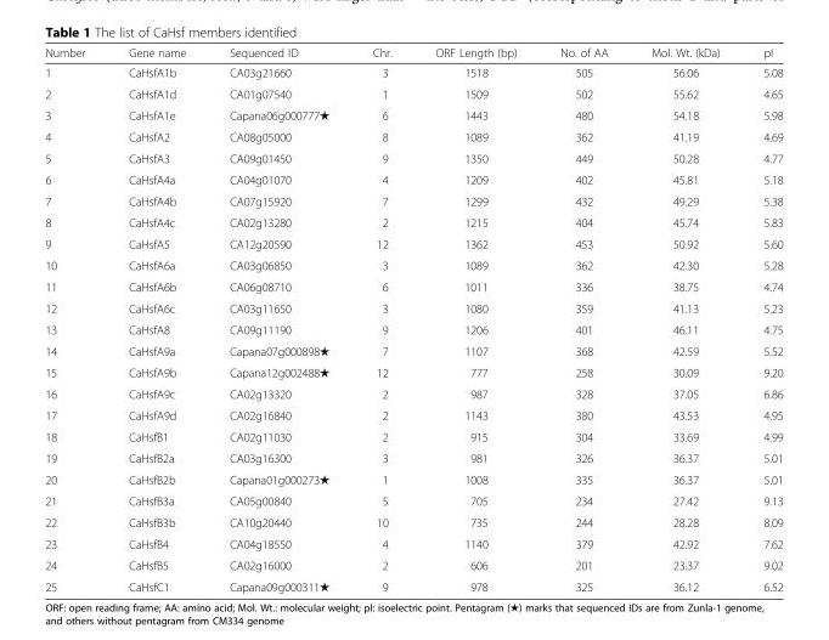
<table><thead><tr><td>Number</td><td>Gene name</td><td>Sequenced ID</td><td>Chr.</td><td>ORF Length (bp)</td><td>No. of AA</td><td>Mol. Wt. (kDa)</td><td>pI</td></tr></thead><tbody><tr><td>1</td><td>CaHsfA1b</td><td>CA03g21660</td><td>3</td><td>1518</td><td>505</td><td>56.06</td><td>5.08</td></tr><tr><td>2</td><td>CaHsfA1d</td><td>CA01g07540</td><td>1</td><td>1509</td><td>502</td><td>55.62</td><td>4.65</td></tr><tr><td>3</td><td>CaHsfA1e</td><td>Capana06g000777★</td><td>6</td><td>1443</td><td>480</td><td>54.18</td><td>5.98</td></tr><tr><td>4</td><td>CaHsfA2</td><td>CA08g05000</td><td>8</td><td>1089</td><td>362</td><td>41.19</td><td>4.69</td></tr><tr><td>5</td><td>CaHsfA3</td><td>CA09g01450</td><td>9</td><td>1350</td><td>449</td><td>50.28</td><td>4.77</td></tr><tr><td>6</td><td>CaHsfA4a</td><td>CA04g01070</td><td>4</td><td>1209</td><td>402</td><td>45.81</td><td>5.18</td></tr><tr><td>7</td><td>CaHsfA4b</td><td>CA07g15920</td><td>7</td><td>1299</td><td>432</td><td>49.29</td><td>5.38</td></tr><tr><td>8</td><td>CaHsfA4c</td><td>CA02g13280</td><td>2</td><td>1215</td><td>404</td><td>45.74</td><td>5.83</td></tr><tr><td>9</td><td>CaHsfA5</td><td>CA12g20590</td><td>12</td><td>1362</td><td>453</td><td>50.92</td><td>5.60</td></tr><tr><td>10</td><td>CaHsfA6a</td><td>CA03g06850</td><td>3</td><td>1089</td><td>362</td><td>42.30</td><td>5.28</td></tr><tr><td>11</td><td>CaHsfA6b</td><td>CA06g08710</td><td>6</td><td>1011</td><td>336</td><td>38.75</td><td>4.74</td></tr><tr><td>12</td><td>CaHsfA6c</td><td>CA03g11650</td><td>3</td><td>1080</td><td>359</td><td>41.13</td><td>5.23</td></tr><tr><td>13</td><td>CaHsfA8</td><td>CA09g11190</td><td>9</td><td>1206</td><td>401</td><td>46.11</td><td>4.75</td></tr><tr><td>14</td><td>CaHsfA9a</td><td>Capana07g000898★</td><td>7</td><td>1107</td><td>368</td><td>42.59</td><td>5.52</td></tr><tr><td>15</td><td>CaHsfA9b</td><td>Capana12g002488★</td><td>12</td><td>777</td><td>258</td><td>30.09</td><td>9.20</td></tr><tr><td>16</td><td>CaHsfA9c</td><td>CA02g13320</td><td>2</td><td>987</td><td>328</td><td>37.05</td><td>6.86</td></tr><tr><td>17</td><td>CaHsfA9d</td><td>CA02g16840</td><td>2</td><td>1143</td><td>380</td><td>43.53</td><td>4.95</td></tr><tr><td>18</td><td>CaHsfB1</td><td>CA02g11030</td><td>2</td><td>915</td><td>304</td><td>33.69</td><td>4.99</td></tr><tr><td>19</td><td>CaHsfB2a</td><td>CA03g16300</td><td>3</td><td>981</td><td>326</td><td>36.37</td><td>5.01</td></tr><tr><td>20</td><td>CaHsfB2b</td><td>Capana01g000273★</td><td>1</td><td>1008</td><td>335</td><td>36.37</td><td>5.01</td></tr><tr><td>21</td><td>CaHsfB3a</td><td>CA05g00840</td><td>5</td><td>705</td><td>234</td><td>27.42</td><td>9.13</td></tr><tr><td>22</td><td>CaHsfB3b</td><td>CA10g20440</td><td>10</td><td>735</td><td>244</td><td>28.28</td><td>8.09</td></tr><tr><td>23</td><td>CaHsfB4</td><td>CA04g18550</td><td>4</td><td>1140</td><td>379</td><td>42.92</td><td>7.62</td></tr><tr><td>24</td><td>CaHsfB5</td><td>CA02g16000</td><td>2</td><td>606</td><td>201</td><td>23.37</td><td>9.02</td></tr><tr><td>25</td><td>CaHsfC1</td><td>Capana09g000311★</td><td>9</td><td>978</td><td>325</td><td>36.12</td><td>6.52</td></tr></tbody></table>